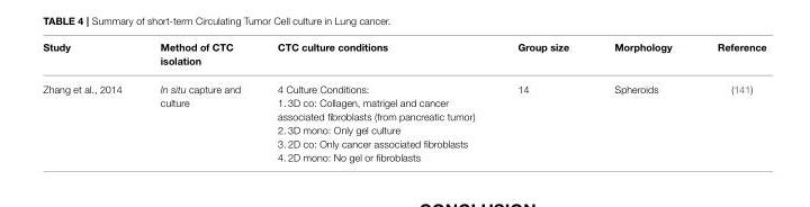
<table><thead><tr><td>Study</td><td>Method of CTC isolation</td><td>CTC culture conditions</td><td>Group size</td><td>Morphology</td><td>Reference</td></tr></thead><tbody><tr><td>Zhang et al., 2014</td><td>In situ capture and culture</td><td>4 Culture Conditions: 1. 3D co: Collagen, matrigel and cancer associated fibroblasts (from pancreatic tumor) 2. 3D mono: Only gel culture 3. 2D co: Only cancer associated fibroblasts 4. 2D mono: No gel or fibroblasts</td><td>14</td><td>Spheroids</td><td>(141)</td></tr></tbody></table>